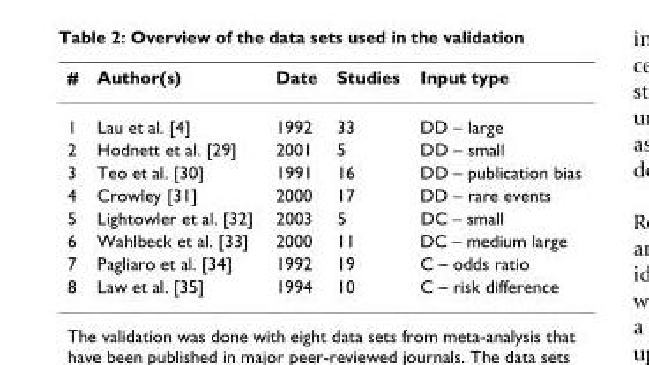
<table><thead><tr><td>#</td><td>Author(s)</td><td>Date</td><td>Studies</td><td>Input type</td></tr></thead><tbody><tr><td>1</td><td>Lau et al. [4]</td><td>1992</td><td>33</td><td>DD – large</td></tr><tr><td>2</td><td>Hodnett et al. [29]</td><td>2001</td><td>5</td><td>DD – small</td></tr><tr><td>3</td><td>Teo et al. [30]</td><td>1991</td><td>16</td><td>DD – publication bias</td></tr><tr><td>4</td><td>Crowley [31]</td><td>2000</td><td>17</td><td>DD – rare events</td></tr><tr><td>5</td><td>Lightowler et al. [32]</td><td>2003</td><td>5</td><td>DC – small</td></tr><tr><td>6</td><td>Wahlbeck et al. [33]</td><td>2000</td><td>11</td><td>DC – medium large</td></tr><tr><td>7</td><td>Pagliaro et al. [34]</td><td>1992</td><td>19</td><td>C – odds ratio</td></tr><tr><td>8</td><td>Law et al. [35]</td><td>1994</td><td>10</td><td>C – risk difference</td></tr></tbody></table>